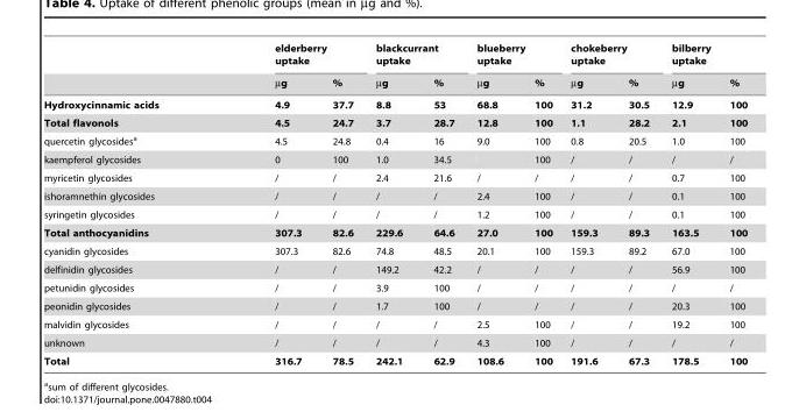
<table><thead><tr><td rowspan="2"></td><td colspan="2">elderberry uptake</td><td colspan="2">blackcurrant uptake</td><td colspan="2">blueberry uptake</td><td colspan="2">chokeberry uptake</td><td colspan="2">bilberry uptake</td></tr><tr><td>µg</td><td>%</td><td>µg</td><td>%</td><td>µg</td><td>%</td><td>µg</td><td>%</td><td>µg</td><td>%</td></tr></thead><tbody><tr><td>Hydroxycinnamic acids</td><td>4.9</td><td>37.7</td><td>8.8</td><td>53</td><td>68.8</td><td>100</td><td>31.2</td><td>30.5</td><td>12.9</td><td>100</td></tr><tr><td>Total flavonols</td><td>4.5</td><td>24.7</td><td>3.7</td><td>28.7</td><td>12.8</td><td>100</td><td>1.1</td><td>28.2</td><td>2.1</td><td>100</td></tr><tr><td>quercetin glycosides<sup>a</sup></td><td>4.5</td><td>24.8</td><td>0.4</td><td>16</td><td>9.0</td><td>100</td><td>0.8</td><td>20.5</td><td>1.0</td><td>100</td></tr><tr><td>kaempferol glycosides</td><td>0</td><td>100</td><td>1.0</td><td>34.5</td><td></td><td>100</td><td>/</td><td>/</td><td>/</td><td>/</td></tr><tr><td>myricetin glycosides</td><td>/</td><td>/</td><td>2.4</td><td>21.6</td><td>/</td><td>/</td><td>/</td><td>/</td><td>0.7</td><td>100</td></tr><tr><td>ishoramnethin glycosides</td><td>/</td><td>/</td><td>/</td><td>/</td><td>2.4</td><td>100</td><td>/</td><td>/</td><td>0.1</td><td>100</td></tr><tr><td>syringetin glycosides</td><td>/</td><td>/</td><td>/</td><td>/</td><td>1.2</td><td>100</td><td>/</td><td>/</td><td>0.1</td><td>100</td></tr><tr><td>Total anthocyanidins</td><td>307.3</td><td>82.6</td><td>229.6</td><td>64.6</td><td>27.0</td><td>100</td><td>159.3</td><td>89.3</td><td>163.5</td><td>100</td></tr><tr><td>cyanidin glycosides</td><td>307.3</td><td>82.6</td><td>74.8</td><td>48.5</td><td>20.1</td><td>100</td><td>159.3</td><td>89.2</td><td>67.0</td><td>100</td></tr><tr><td>delfinidin glycosides</td><td>/</td><td>/</td><td>149.2</td><td>42.2</td><td>/</td><td>/</td><td>/</td><td>/</td><td>56.9</td><td>100</td></tr><tr><td>petunidin glycosides</td><td>/</td><td>/</td><td>3.9</td><td>100</td><td>/</td><td>/</td><td>/</td><td>/</td><td>/</td><td>/</td></tr><tr><td>peonidin glycosides</td><td>/</td><td>/</td><td>1.7</td><td>100</td><td>/</td><td>/</td><td>/</td><td>/</td><td>20.3</td><td>100</td></tr><tr><td>malvidin glycosides</td><td>/</td><td>/</td><td>/</td><td>/</td><td>2.5</td><td>100</td><td>/</td><td>/</td><td>19.2</td><td>100</td></tr><tr><td>unknown</td><td>/</td><td>/</td><td>/</td><td>/</td><td>4.3</td><td>100</td><td>/</td><td>/</td><td>/</td><td>/</td></tr><tr><td>Total</td><td>316.7</td><td>78.5</td><td>242.1</td><td>62.9</td><td>108.6</td><td>100</td><td>191.6</td><td>67.3</td><td>178.5</td><td>100</td></tr></tbody></table>